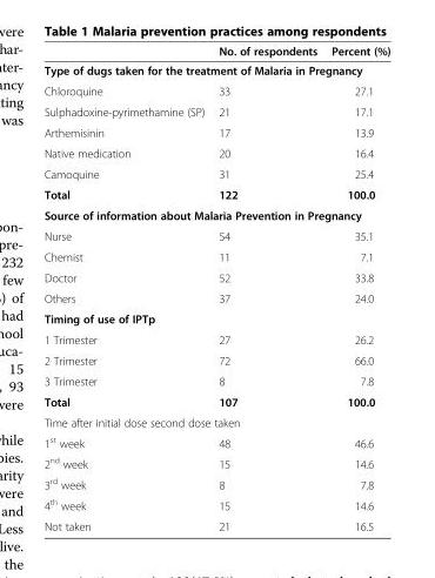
<table><thead><tr><td></td><td>No. of respondents</td><td>Percent (%)</td></tr></thead><tbody><tr><td colspan="3">Type of dugs taken for the treatment of Malaria in Pregnancy</td></tr><tr><td>Chloroquine</td><td>33</td><td>27.1</td></tr><tr><td>Sulphadoxine-pyrimethamine (SP)</td><td>21</td><td>17.1</td></tr><tr><td>Arthemisinin</td><td>17</td><td>13.9</td></tr><tr><td>Native medication</td><td>20</td><td>16.4</td></tr><tr><td>Camoquine</td><td>31</td><td>25.4</td></tr><tr><td>Total</td><td>122</td><td>100.0</td></tr><tr><td colspan="3">Source of information about Malaria Prevention in Pregnancy</td></tr><tr><td>Nurse</td><td>54</td><td>35.1</td></tr><tr><td>Chemist</td><td>11</td><td>7.1</td></tr><tr><td>Doctor</td><td>52</td><td>33.8</td></tr><tr><td>Others</td><td>37</td><td>24.0</td></tr><tr><td colspan="3">Timing of use of IPTp</td></tr><tr><td>1 Trimester</td><td>27</td><td>26.2</td></tr><tr><td>2 Trimester</td><td>72</td><td>66.0</td></tr><tr><td>3 Trimester</td><td>8</td><td>7.8</td></tr><tr><td>Total</td><td>107</td><td>100.0</td></tr><tr><td colspan="3">Time after initial dose second dose taken</td></tr><tr><td>1<sup>st</sup> week</td><td>48</td><td>46.6</td></tr><tr><td>2<sup>nd</sup> week</td><td>15</td><td>14.6</td></tr><tr><td>3<sup>rd</sup> week</td><td>8</td><td>7.8</td></tr><tr><td>4<sup>th</sup> week</td><td>15</td><td>14.6</td></tr><tr><td>Not taken</td><td>21</td><td>16.5</td></tr></tbody></table>